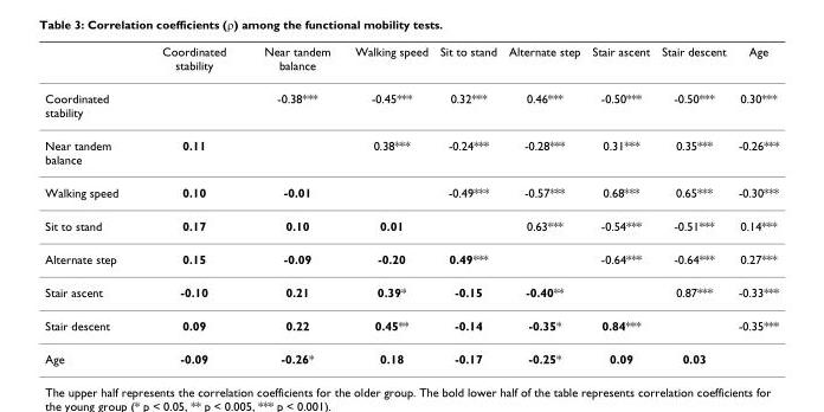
<table><thead><tr><td></td><td>Coordinated stability</td><td>Near tandem balance</td><td>Walking speed</td><td>Sit to stand</td><td>Alternate step</td><td>Stair ascent</td><td>Stair descent</td><td>Age</td></tr></thead><tbody><tr><td>Coordinated stability</td><td></td><td>-0.38***</td><td>-0.45***</td><td>0.32***</td><td>0.46***</td><td>-0.50***</td><td>-0.50***</td><td>0.30***</td></tr><tr><td>Near tandem balance</td><td>0.11</td><td></td><td>0.38***</td><td>-0.24***</td><td>-0.28***</td><td>0.31***</td><td>0.35***</td><td>-0.26***</td></tr><tr><td>Walking speed</td><td>0.10</td><td>-0.01</td><td></td><td>-0.49***</td><td>-0.57***</td><td>0.68***</td><td>0.65***</td><td>-0.30***</td></tr><tr><td>Sit to stand</td><td>0.17</td><td>0.10</td><td>0.01</td><td></td><td>0.63***</td><td>-0.54***</td><td>-0.51***</td><td>0.14***</td></tr><tr><td>Alternate step</td><td>0.15</td><td>-0.09</td><td>-0.20</td><td>0.49***</td><td></td><td>-0.64***</td><td>-0.64***</td><td>0.27***</td></tr><tr><td>Stair ascent</td><td>-0.10</td><td>0.21</td><td>0.39*</td><td>-0.15</td><td>-0.40**</td><td></td><td>0.87***</td><td>-0.33***</td></tr><tr><td>Stair descent</td><td>0.09</td><td>0.22</td><td>0.45**</td><td>-0.14</td><td>-0.35*</td><td>0.84***</td><td></td><td>-0.35***</td></tr><tr><td>Age</td><td>-0.09</td><td>-0.26*</td><td>0.18</td><td>-0.17</td><td>-0.25*</td><td>0.09</td><td>0.03</td><td></td></tr></tbody></table>